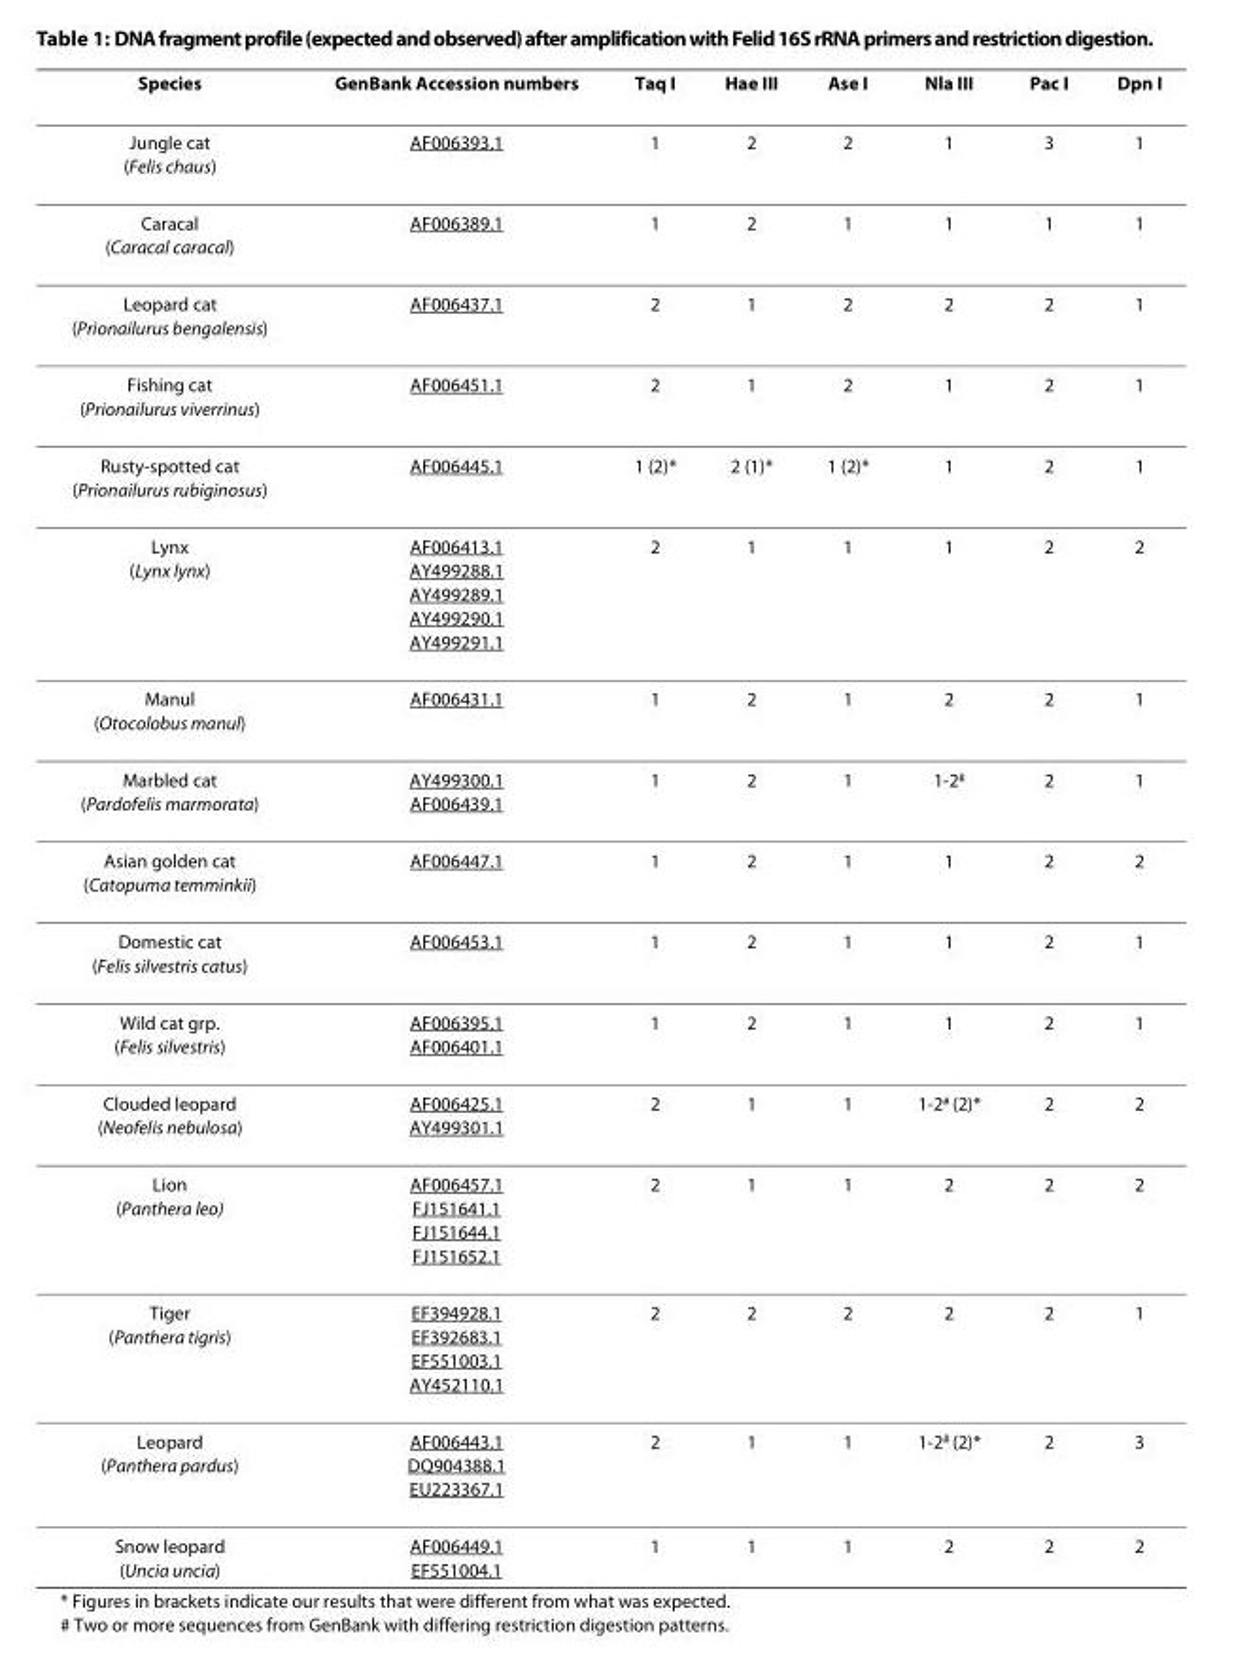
<table><thead><tr><td>Species</td><td>GenBank Accession numbers</td><td>Taq I</td><td>Hae III</td><td>Ase I</td><td>Nla III</td><td>Pac I</td><td>Dpn I</td></tr></thead><tbody><tr><td>Jungle cat (Felis chaus)</td><td>AF006393.1</td><td>1</td><td>2</td><td>2</td><td>1</td><td>3</td><td>1</td></tr><tr><td>Caracal (Caracal caracal)</td><td>AF006389.1</td><td>1</td><td>2</td><td>1</td><td>1</td><td>1</td><td>1</td></tr><tr><td>Leopard cat (Prionailurus bengalensis)</td><td>AF006437.1</td><td>2</td><td>1</td><td>2</td><td>2</td><td>2</td><td>1</td></tr><tr><td>Fishing cat (Prionailurus viverrinus)</td><td>AF006451.1</td><td>2</td><td>1</td><td>2</td><td>1</td><td>2</td><td>1</td></tr><tr><td>Rusty-spotted cat (Prionailurus rubiginosus)</td><td>AF006445.1</td><td>1 (2)*</td><td>2 (1)*</td><td>1 (2)*</td><td>1</td><td>2</td><td>1</td></tr><tr><td>Lynx (Lynx lynx)</td><td>AF006413.1 AY499288.1 AY499289.1 AY499290.1 AY499291.1</td><td>2</td><td>1</td><td>1</td><td>1</td><td>2</td><td>2</td></tr><tr><td>Manul (Otocolobus manul)</td><td>AF006431.1</td><td>1</td><td>2</td><td>1</td><td>2</td><td>2</td><td>1</td></tr><tr><td>Marbled cat (Pardofelis marmorata)</td><td>AY499300.1 AF006439.1</td><td>1</td><td>2</td><td>1</td><td>1-2<sup>#</sup></td><td>2</td><td>1</td></tr><tr><td>Asian golden cat (Catopuma temminkii)</td><td>AF006447.1</td><td>1</td><td>2</td><td>1</td><td>1</td><td>2</td><td>2</td></tr><tr><td>Domestic cat (Felis silvestris catus)</td><td>AF006453.1</td><td>1</td><td>2</td><td>1</td><td>1</td><td>2</td><td>1</td></tr><tr><td>Wild cat grp. (Felis silvestris)</td><td>AF006395.1 AF006401.1</td><td>1</td><td>2</td><td>1</td><td>1</td><td>2</td><td>1</td></tr><tr><td>Clouded leopard (Neofelis nebulosa)</td><td>AF006425.1 AY499301.1</td><td>2</td><td>1</td><td>1</td><td>1-2<sup>#</sup> (2)*</td><td>2</td><td>2</td></tr><tr><td>Lion (Panthera leo)</td><td>AF006457.1 FJ151641.1 FJ151644.1 FJ151652.1</td><td>2</td><td>1</td><td>1</td><td>2</td><td>2</td><td>2</td></tr><tr><td>Tiger (Panthera tigris)</td><td>EF394928.1 EF392683.1 EF551003.1 AY452110.1</td><td>2</td><td>2</td><td>2</td><td>2</td><td>2</td><td>1</td></tr><tr><td>Leopard (Panthera pardus)</td><td>AF006443.1 DQ904388.1 EU223367.1</td><td>2</td><td>1</td><td>1</td><td>1-2<sup>#</sup> (2)*</td><td>2</td><td>3</td></tr><tr><td>Snow leopard (Uncia uncia)</td><td>AF006449.1 EF551004.1</td><td>1</td><td>1</td><td>1</td><td>2</td><td>2</td><td>2</td></tr></tbody></table>